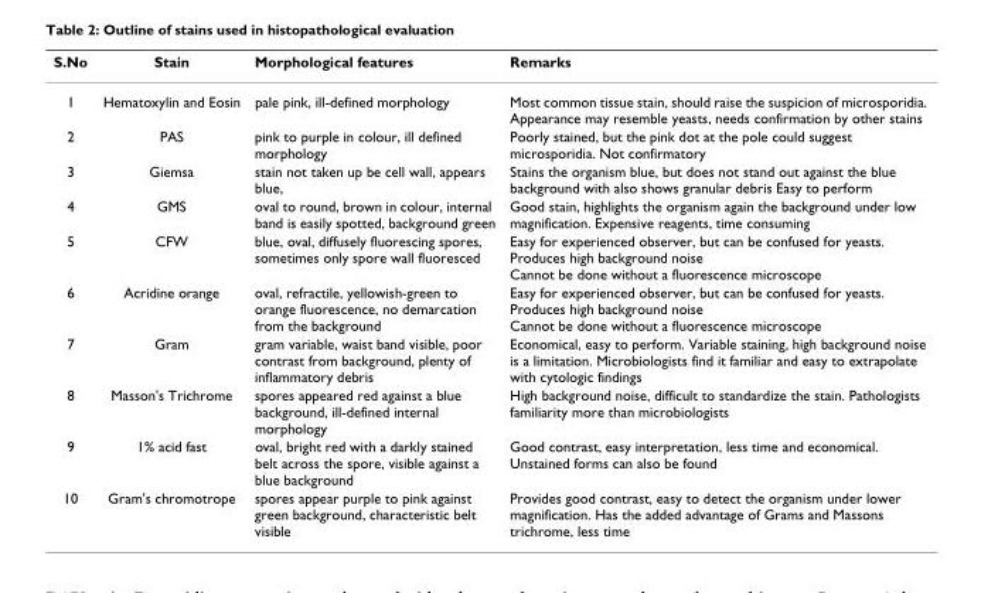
<table><thead><tr><td>S.No</td><td>Stain</td><td>Morphological features</td><td>Remarks</td></tr></thead><tbody><tr><td>1</td><td>Hematoxylin and Eosin</td><td>pale pink, ill-defined morphology</td><td>Most common tissue stain, should raise the suspicion of microsporidia. Appearance may resemble yeasts, needs confirmation by other stains</td></tr><tr><td>2</td><td>PAS</td><td>pink to purple in colour, ill defined morphology</td><td>Poorly stained, but the pink dot at the pole could suggest microsporidia. Not confirmatory</td></tr><tr><td>3</td><td>Giemsa</td><td>stain not taken up be cell wall, appears blue,</td><td>Stains the organism blue, but does not stand out against the blue background with also shows granular debris Easy to perform</td></tr><tr><td>4</td><td>GMS</td><td>oval to round, brown in colour, internal band is easily spotted, background green</td><td>Good stain, highlights the organism again the background under low magnification. Expensive reagents, time consuming</td></tr><tr><td>5</td><td>CFW</td><td>blue, oval, diffusely fluorescing spores, sometimes only spore wall fluoresced</td><td>Easy for experienced observer, but can be confused for yeasts. Produces high background noise Cannot be done without a fluorescence microscope</td></tr><tr><td>6</td><td>Acridine orange</td><td>oval, refractile, yellowish-green to orange fluorescence, no demarcation from the background</td><td>Easy for experienced observer, but can be confused for yeasts. Produces high background noise Cannot be done without a fluorescence microscope</td></tr><tr><td>7</td><td>Gram</td><td>gram variable, waist band visible, poor contrast from background, plenty of inflammatory debris</td><td>Economical, easy to perform. Variable staining, high background noise is a limitation. Microbiologists find it familiar and easy to extrapolate with cytologic findings</td></tr><tr><td>8</td><td>Masson&#x27;s Trichrome</td><td>spores appeared red against a blue background, ill-defined internal morphology</td><td>High background noise, difficult to standardize the stain. Pathologists familiarity more than microbiologists</td></tr><tr><td>9</td><td>1% acid fast</td><td>oval, bright red with a darkly stained belt across the spore, visible against a blue background</td><td>Good contrast, easy interpretation, less time and economical. Unstained forms can also be found</td></tr><tr><td>10</td><td>Gram&#x27;s chromotrope</td><td>spores appear purple to pink against green background, characteristic belt visible</td><td>Provides good contrast, easy to detect the organism under lower magnification. Has the added advantage of Grams and Massons trichrome, less time</td></tr></tbody></table>